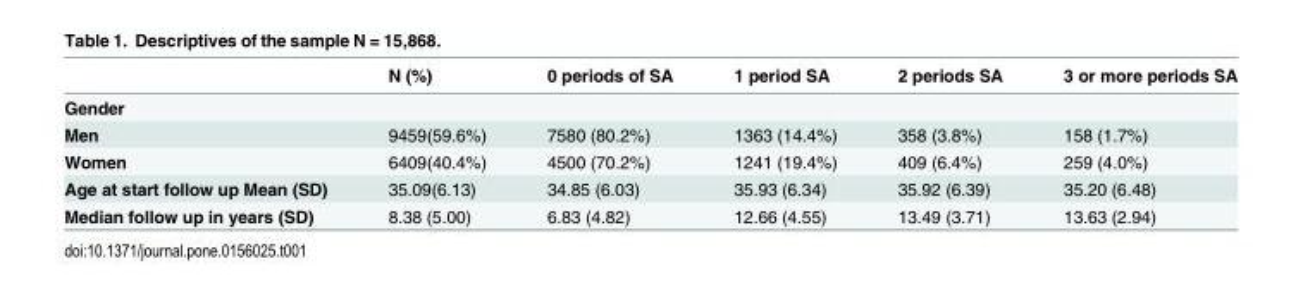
<table><thead><tr><td></td><td>N (%)</td><td>0 periods of SA</td><td>1 period SA</td><td>2 periods SA</td><td>3 or more periods SA</td></tr></thead><tbody><tr><td colspan="6">Gender</td></tr><tr><td>Men</td><td>9459(59.6%)</td><td>7580 (80.2%)</td><td>1363 (14.4%)</td><td>358 (3.8%)</td><td>158 (1.7%)</td></tr><tr><td>Women</td><td>6409(40.4%)</td><td>4500 (70.2%)</td><td>1241 (19.4%)</td><td>409 (6.4%)</td><td>259 (4.0%)</td></tr><tr><td>Age at start follow up Mean (SD)</td><td>35.09(6.13)</td><td>34.85 (6.03)</td><td>35.93 (6.34)</td><td>35.92 (6.39)</td><td>35.20 (6.48)</td></tr><tr><td>Median follow up in years (SD)</td><td>8.38 (5.00)</td><td>6.83 (4.82)</td><td>12.66 (4.55)</td><td>13.49 (3.71)</td><td>13.63 (2.94)</td></tr></tbody></table>